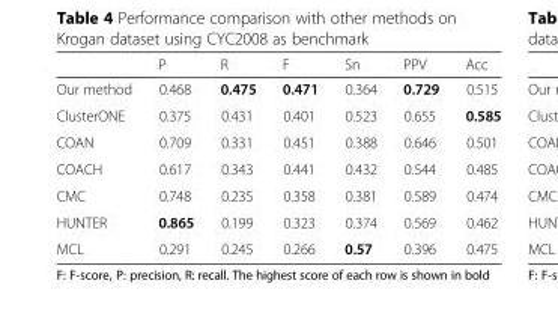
<table><thead><tr><td></td><td>P</td><td>R</td><td>F</td><td>Sn</td><td>PPV</td><td>Acc</td></tr></thead><tbody><tr><td>Our method</td><td>0.468</td><td>0.475</td><td>0.471</td><td>0.364</td><td>0.729</td><td>0.515</td></tr><tr><td>ClusterONE</td><td>0.375</td><td>0.431</td><td>0.401</td><td>0.523</td><td>0.655</td><td>0.585</td></tr><tr><td>COAN</td><td>0.709</td><td>0.331</td><td>0.451</td><td>0.388</td><td>0.646</td><td>0.501</td></tr><tr><td>COACH</td><td>0.617</td><td>0.343</td><td>0.441</td><td>0.432</td><td>0.544</td><td>0.485</td></tr><tr><td>CMC</td><td>0.748</td><td>0.235</td><td>0.358</td><td>0.381</td><td>0.589</td><td>0.474</td></tr><tr><td>HUNTER</td><td>0.865</td><td>0.199</td><td>0.323</td><td>0.374</td><td>0.569</td><td>0.462</td></tr><tr><td>MCL</td><td>0.291</td><td>0.245</td><td>0.266</td><td>0.57</td><td>0.396</td><td>0.475</td></tr></tbody></table>